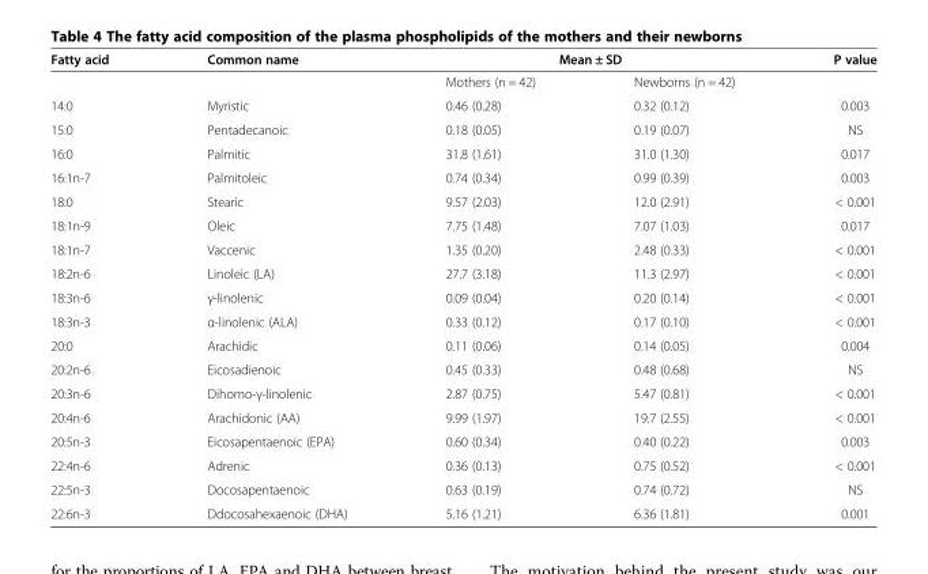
<table><thead><tr><td>Fatty acid</td><td>Common name</td><td>Mean ± SD</td><td></td><td>P value</td></tr></thead><tbody><tr><td></td><td></td><td>Mothers (n = 42)</td><td>Newborns (n = 42)</td><td></td></tr><tr><td>14:0</td><td>Myristic</td><td>0.46 (0.28)</td><td>0.32 (0.12)</td><td>0.003</td></tr><tr><td>15:0</td><td>Pentadecanoic</td><td>0.18 (0.05)</td><td>0.19 (0.07)</td><td>NS</td></tr><tr><td>16:0</td><td>Palmitic</td><td>31.8 (1.61)</td><td>31.0 (1.30)</td><td>0.017</td></tr><tr><td>16:1n-7</td><td>Palmitoleic</td><td>0.74 (0.34)</td><td>0.99 (0.39)</td><td>0.003</td></tr><tr><td>18:0</td><td>Stearic</td><td>9.57 (2.03)</td><td>12.0 (2.91)</td><td>&lt; 0.001</td></tr><tr><td>18:1n-9</td><td>Oleic</td><td>7.75 (1.48)</td><td>7.07 (1.03)</td><td>0.017</td></tr><tr><td>18:1n-7</td><td>Vaccenic</td><td>1.35 (0.20)</td><td>2.48 (0.33)</td><td>&lt; 0.001</td></tr><tr><td>18:2n-6</td><td>Linoleic (LA)</td><td>27.7 (3.18)</td><td>11.3 (2.97)</td><td>&lt; 0.001</td></tr><tr><td>18:3n-6</td><td>γ-linolenic</td><td>0.09 (0.04)</td><td>0.20 (0.14)</td><td>&lt; 0.001</td></tr><tr><td>18:3n-3</td><td>α-linolenic (ALA)</td><td>0.33 (0.12)</td><td>0.17 (0.10)</td><td>&lt; 0.001</td></tr><tr><td>20:0</td><td>Arachidic</td><td>0.11 (0.06)</td><td>0.14 (0.05)</td><td>0.004</td></tr><tr><td>20:2n-6</td><td>Eicosadienoic</td><td>0.45 (0.33)</td><td>0.48 (0.68)</td><td>NS</td></tr><tr><td>20:3n-6</td><td>Dihomo-γ-linolenic</td><td>2.87 (0.75)</td><td>5.47 (0.81)</td><td>&lt; 0.001</td></tr><tr><td>20:4n-6</td><td>Arachidonic (AA)</td><td>9.99 (1.97)</td><td>19.7 (2.55)</td><td>&lt; 0.001</td></tr><tr><td>20:5n-3</td><td>Eicosapentaenoic (EPA)</td><td>0.60 (0.34)</td><td>0.40 (0.22)</td><td>0.003</td></tr><tr><td>22:4n-6</td><td>Adrenic</td><td>0.36 (0.13)</td><td>0.75 (0.52)</td><td>&lt; 0.001</td></tr><tr><td>22:5n-3</td><td>Docosapentaenoic</td><td>0.63 (0.19)</td><td>0.74 (0.72)</td><td>NS</td></tr><tr><td>22:6n-3</td><td>Ddocosahexaenoic (DHA)</td><td>5.16 (1.21)</td><td>6.36 (1.81)</td><td>0.001</td></tr></tbody></table>